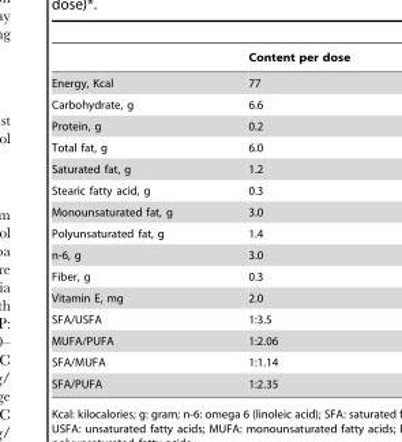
<table><thead><tr><td></td><td>Content per dose</td></tr></thead><tbody><tr><td>Energy, Kcal</td><td>77</td></tr><tr><td>Carbohydrate, g</td><td>6.6</td></tr><tr><td>Protein, g</td><td>0.2</td></tr><tr><td>Total fat, g</td><td>6.0</td></tr><tr><td>Saturated fat, g</td><td>1.2</td></tr><tr><td>Stearic fatty acid, g</td><td>0.3</td></tr><tr><td>Monounsaturated fat, g</td><td>3.0</td></tr><tr><td>Polyunsaturated fat, g</td><td>1.4</td></tr><tr><td>n-6, g</td><td>3.0</td></tr><tr><td>Fiber, g</td><td>0.3</td></tr><tr><td>Vitamin E, mg</td><td>2.0</td></tr><tr><td>SFA/USFA</td><td>1:3.5</td></tr><tr><td>MUFA/PUFA</td><td>1:2.06</td></tr><tr><td>SFA/MUFA</td><td>1:1.14</td></tr><tr><td>SFA/PUFA</td><td>1:2.35</td></tr></tbody></table>